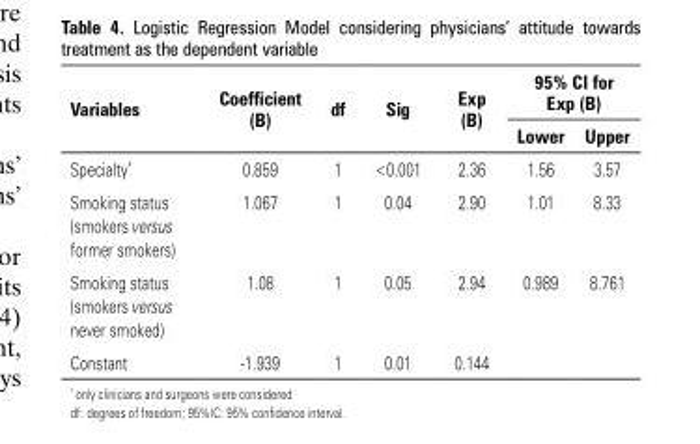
<table><thead><tr><td rowspan="2">Variables</td><td rowspan="2">Coefficient (B)</td><td rowspan="2">df</td><td rowspan="2">Sig</td><td rowspan="2">Exp (B)</td><td colspan="2">95% CI for Exp (B)</td></tr><tr><td>Lower</td><td>Upper</td></tr></thead><tbody><tr><td>Specialty*</td><td>0.859</td><td>1</td><td>&lt;0.001</td><td>2.36</td><td>1.56</td><td>3.57</td></tr><tr><td>Smoking status (smokers versus former smokers)</td><td>1.067</td><td>1</td><td>0.04</td><td>2.90</td><td>1.01</td><td>8.33</td></tr><tr><td>Smoking status (smokers versus never smoked)</td><td>1.08</td><td>1</td><td>0.05</td><td>2.94</td><td>0.989</td><td>8.761</td></tr><tr><td>Constant</td><td>-1.939</td><td>1</td><td>0.01</td><td>0.144</td><td></td><td></td></tr></tbody></table>